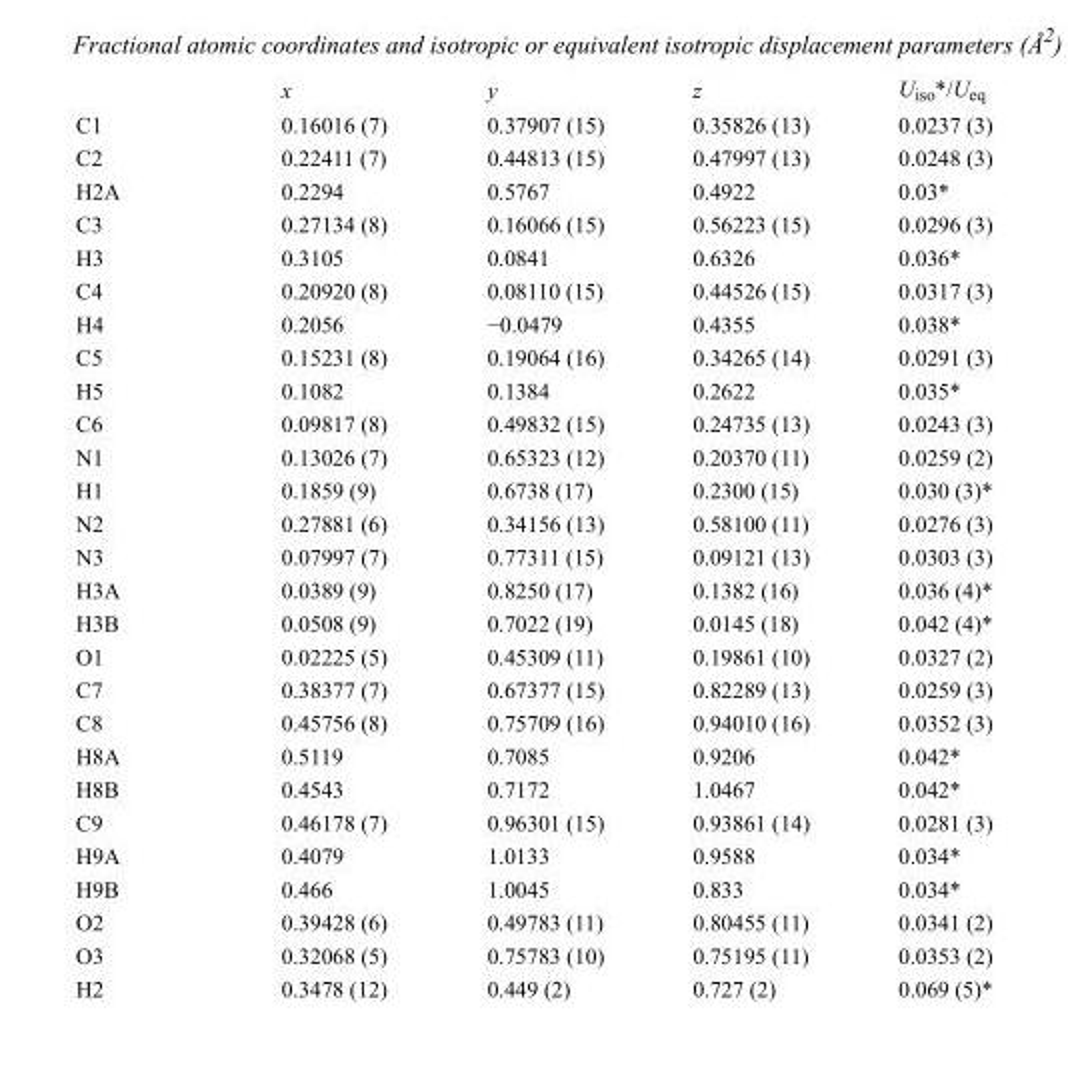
<table><thead><tr><td></td><td>x</td><td>y</td><td>z</td><td>U<sub>iso</sub>*/U<sub>eq</sub></td></tr></thead><tbody><tr><td>C1</td><td>0.16016 (7)</td><td>0.37907 (15)</td><td>0.35826 (13)</td><td>0.0237 (3)</td></tr><tr><td>C2</td><td>0.22411 (7)</td><td>0.44813 (15)</td><td>0.47997 (13)</td><td>0.0248 (3)</td></tr><tr><td>H2A</td><td>0.2294</td><td>0.5767</td><td>0.4922</td><td>0.03*</td></tr><tr><td>C3</td><td>0.27134 (8)</td><td>0.16066 (15)</td><td>0.56223 (15)</td><td>0.0296 (3)</td></tr><tr><td>H3</td><td>0.3105</td><td>0.0841</td><td>0.6326</td><td>0.036*</td></tr><tr><td>C4</td><td>0.20920 (8)</td><td>0.08110 (15)</td><td>0.44526 (15)</td><td>0.0317 (3)</td></tr><tr><td>H4</td><td>0.2056</td><td>−0.0479</td><td>0.4355</td><td>0.038*</td></tr><tr><td>C5</td><td>0.15231 (8)</td><td>0.19064 (16)</td><td>0.34265 (14)</td><td>0.0291 (3)</td></tr><tr><td>H5</td><td>0.1082</td><td>0.1384</td><td>0.2622</td><td>0.035*</td></tr><tr><td>C6</td><td>0.09817 (8)</td><td>0.49832 (15)</td><td>0.24735 (13)</td><td>0.0243 (3)</td></tr><tr><td>N1</td><td>0.13026 (7)</td><td>0.65323 (12)</td><td>0.20370 (11)</td><td>0.0259 (2)</td></tr><tr><td>H1</td><td>0.1859 (9)</td><td>0.6738 (17)</td><td>0.2300 (15)</td><td>0.030 (3)*</td></tr><tr><td>N2</td><td>0.27881 (6)</td><td>0.34156 (13)</td><td>0.58100 (11)</td><td>0.0276 (3)</td></tr><tr><td>N3</td><td>0.07997 (7)</td><td>0.77311 (15)</td><td>0.09121 (13)</td><td>0.0303 (3)</td></tr><tr><td>H3A</td><td>0.0389 (9)</td><td>0.8250 (17)</td><td>0.1382 (16)</td><td>0.036 (4)*</td></tr><tr><td>H3B</td><td>0.0508 (9)</td><td>0.7022 (19)</td><td>0.0145 (18)</td><td>0.042 (4)*</td></tr><tr><td>O1</td><td>0.02225 (5)</td><td>0.45309 (11)</td><td>0.19861 (10)</td><td>0.0327 (2)</td></tr><tr><td>C7</td><td>0.38377 (7)</td><td>0.67377 (15)</td><td>0.82289 (13)</td><td>0.0259 (3)</td></tr><tr><td>C8</td><td>0.45756 (8)</td><td>0.75709 (16)</td><td>0.94010 (16)</td><td>0.0352 (3)</td></tr><tr><td>H8A</td><td>0.5119</td><td>0.7085</td><td>0.9206</td><td>0.042*</td></tr><tr><td>H8B</td><td>0.4543</td><td>0.7172</td><td>1.0467</td><td>0.042*</td></tr><tr><td>C9</td><td>0.46178 (7)</td><td>0.96301 (15)</td><td>0.93861 (14)</td><td>0.0281 (3)</td></tr><tr><td>H9A</td><td>0.4079</td><td>1.0133</td><td>0.9588</td><td>0.034*</td></tr><tr><td>H9B</td><td>0.466</td><td>1.0045</td><td>0.833</td><td>0.034*</td></tr><tr><td>O2</td><td>0.39428 (6)</td><td>0.49783 (11)</td><td>0.80455 (11)</td><td>0.0341 (2)</td></tr><tr><td>O3</td><td>0.32068 (5)</td><td>0.75783 (10)</td><td>0.75195 (11)</td><td>0.0353 (2)</td></tr><tr><td>H2</td><td>0.3478 (12)</td><td>0.449 (2)</td><td>0.727 (2)</td><td>0.069 (5)*</td></tr></tbody></table>